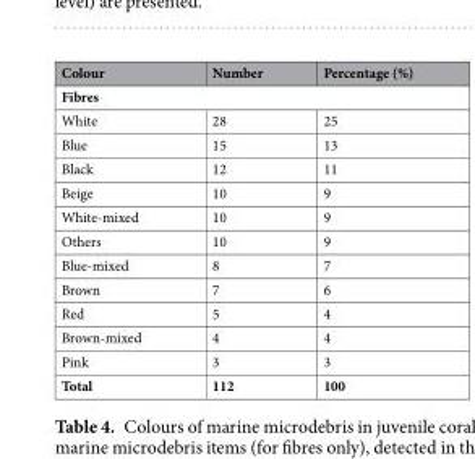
<table><thead><tr><td>Colour</td><td>Number</td><td>Percentage (%)</td></tr></thead><tbody><tr><td colspan="3">Fibres</td></tr><tr><td>White</td><td>28</td><td>25</td></tr><tr><td>Blue</td><td>15</td><td>13</td></tr><tr><td>Black</td><td>12</td><td>11</td></tr><tr><td>Beige</td><td>10</td><td>9</td></tr><tr><td>White-mixed</td><td>10</td><td>9</td></tr><tr><td>Others</td><td>10</td><td>9</td></tr><tr><td>Blue-mixed</td><td>8</td><td>7</td></tr><tr><td>Brown</td><td>7</td><td>6</td></tr><tr><td>Red</td><td>5</td><td>4</td></tr><tr><td>Brown-mixed</td><td>4</td><td>4</td></tr><tr><td>Pink</td><td>3</td><td>3</td></tr><tr><td>Total</td><td>112</td><td>100</td></tr></tbody></table>